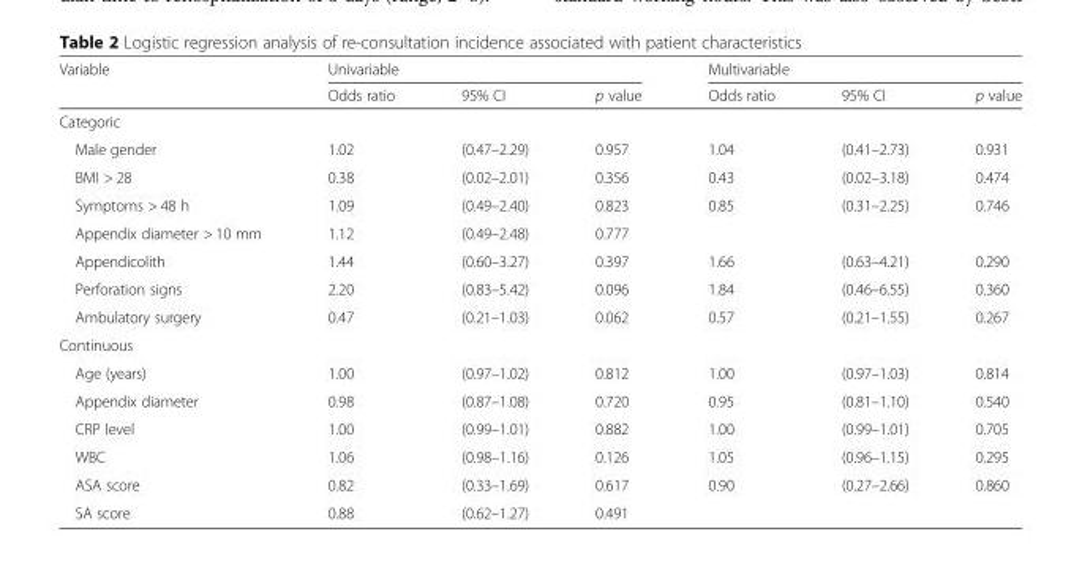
<table><thead><tr><td rowspan="2">Variable</td><td colspan="3">Univariable</td><td colspan="3">Multivariable</td></tr><tr><td>Odds ratio</td><td>95% CI</td><td>p value</td><td>Odds ratio</td><td>95% CI</td><td>p value</td></tr></thead><tbody><tr><td colspan="7">Categoric</td></tr><tr><td>Male gender</td><td>1.02</td><td>(0.47–2.29)</td><td>0.957</td><td>1.04</td><td>(0.41–2.73)</td><td>0.931</td></tr><tr><td>BMI &gt; 28</td><td>0.38</td><td>(0.02–2.01)</td><td>0.356</td><td>0.43</td><td>(0.02–3.18)</td><td>0.474</td></tr><tr><td>Symptoms &gt; 48 h</td><td>1.09</td><td>(0.49–2.40)</td><td>0.823</td><td>0.85</td><td>(0.31–2.25)</td><td>0.746</td></tr><tr><td>Appendix diameter &gt; 10 mm</td><td>1.12</td><td>(0.49–2.48)</td><td>0.777</td><td></td><td></td><td></td></tr><tr><td>Appendicolith</td><td>1.44</td><td>(0.60–3.27)</td><td>0.397</td><td>1.66</td><td>(0.63–4.21)</td><td>0.290</td></tr><tr><td>Perforation signs</td><td>2.20</td><td>(0.83–5.42)</td><td>0.096</td><td>1.84</td><td>(0.46–6.55)</td><td>0.360</td></tr><tr><td>Ambulatory surgery</td><td>0.47</td><td>(0.21–1.03)</td><td>0.062</td><td>0.57</td><td>(0.21–1.55)</td><td>0.267</td></tr><tr><td colspan="7">Continuous</td></tr><tr><td>Age (years)</td><td>1.00</td><td>(0.97–1.02)</td><td>0.812</td><td>1.00</td><td>(0.97–1.03)</td><td>0.814</td></tr><tr><td>Appendix diameter</td><td>0.98</td><td>(0.87–1.08)</td><td>0.720</td><td>0.95</td><td>(0.81–1.10)</td><td>0.540</td></tr><tr><td>CRP level</td><td>1.00</td><td>(0.99–1.01)</td><td>0.882</td><td>1.00</td><td>(0.99–1.01)</td><td>0.705</td></tr><tr><td>WBC</td><td>1.06</td><td>(0.98–1.16)</td><td>0.126</td><td>1.05</td><td>(0.96–1.15)</td><td>0.295</td></tr><tr><td>ASA score</td><td>0.82</td><td>(0.33–1.69)</td><td>0.617</td><td>0.90</td><td>(0.27–2.66)</td><td>0.860</td></tr><tr><td>SA score</td><td>0.88</td><td>(0.62–1.27)</td><td>0.491</td><td></td><td></td><td></td></tr></tbody></table>